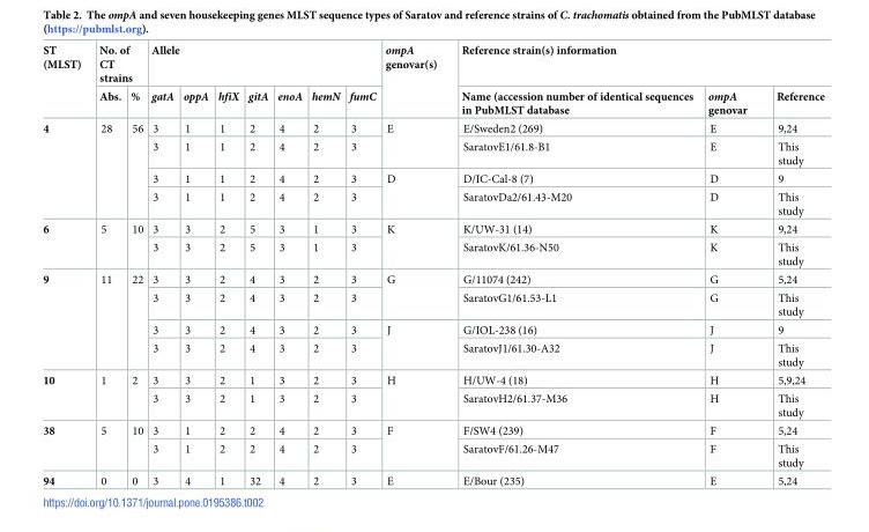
<table><thead><tr><td rowspan="2">ST (MLST)</td><td colspan="2">No. of CT strains</td><td colspan="7">Allele</td><td rowspan="2">ompA genovar(s)</td><td colspan="3">Reference strain(s) information</td></tr><tr><td>Abs.</td><td>%</td><td>gatA</td><td>oppA</td><td>hfiX</td><td>gitA</td><td>enoA</td><td>hemN</td><td>fumC</td><td>Name (accession number of identical sequences in PubMLST database</td><td>ompA genovar</td><td>Reference</td></tr></thead><tbody><tr><td rowspan="4">4</td><td rowspan="4">28</td><td rowspan="4">56</td><td>3</td><td>1</td><td>1</td><td>2</td><td>4</td><td>2</td><td>3</td><td rowspan="2">E</td><td>E/Sweden2 (269)</td><td>E</td><td>9,24</td></tr><tr><td>3</td><td>1</td><td>1</td><td>2</td><td>4</td><td>2</td><td>3</td><td>SaratovE1/61.8-B1</td><td>E</td><td>This study</td></tr><tr><td>3</td><td>1</td><td>1</td><td>2</td><td>4</td><td>2</td><td>3</td><td rowspan="2">D</td><td>D/IC-Cal-8 (7)</td><td>D</td><td>9</td></tr><tr><td>3</td><td>1</td><td>1</td><td>2</td><td>4</td><td>2</td><td>3</td><td>SaratovDa2/61.43-M20</td><td>D</td><td>This study</td></tr><tr><td rowspan="2">6</td><td rowspan="2">5</td><td rowspan="2">10</td><td>3</td><td>3</td><td>2</td><td>5</td><td>3</td><td>1</td><td>3</td><td rowspan="2">K</td><td>K/UW-31 (14)</td><td>K</td><td>9,24</td></tr><tr><td>3</td><td>3</td><td>2</td><td>5</td><td>3</td><td>1</td><td>3</td><td>SaratovK/61.36-N50</td><td>K</td><td>This study</td></tr><tr><td rowspan="4">9</td><td rowspan="4">11</td><td rowspan="4">22</td><td>3</td><td>3</td><td>2</td><td>4</td><td>3</td><td>2</td><td>3</td><td rowspan="2">G</td><td>G/11074 (242)</td><td>G</td><td>5,24</td></tr><tr><td>3</td><td>3</td><td>2</td><td>4</td><td>3</td><td>2</td><td>3</td><td>SaratovG1/61.53-L1</td><td>G</td><td>This study</td></tr><tr><td>3</td><td>3</td><td>2</td><td>4</td><td>3</td><td>2</td><td>3</td><td rowspan="2">J</td><td>G/IOL-238 (16)</td><td>J</td><td>9</td></tr><tr><td>3</td><td>3</td><td>2</td><td>4</td><td>3</td><td>2</td><td>3</td><td>SaratovJ1/61.30-A32</td><td>J</td><td>This study</td></tr><tr><td rowspan="2">10</td><td rowspan="2">1</td><td rowspan="2">2</td><td>3</td><td>3</td><td>2</td><td>1</td><td>3</td><td>2</td><td>3</td><td rowspan="2">H</td><td>H/UW-4 (18)</td><td>H</td><td>5,9,24</td></tr><tr><td>3</td><td>3</td><td>2</td><td>1</td><td>3</td><td>2</td><td>3</td><td>SaratovH2/61.37-M36</td><td>H</td><td>This study</td></tr><tr><td rowspan="2">38</td><td rowspan="2">5</td><td rowspan="2">10</td><td>3</td><td>1</td><td>2</td><td>2</td><td>4</td><td>2</td><td>3</td><td rowspan="2">F</td><td>F/SW4 (239)</td><td>F</td><td>5,24</td></tr><tr><td>3</td><td>1</td><td>2</td><td>2</td><td>4</td><td>2</td><td>3</td><td>SaratovF/61.26-M47</td><td>F</td><td>This study</td></tr><tr><td>94</td><td>0</td><td>0</td><td>3</td><td>4</td><td>1</td><td>32</td><td>4</td><td>2</td><td>3</td><td>E</td><td>E/Bour (235)</td><td>E</td><td>5,24</td></tr></tbody></table>